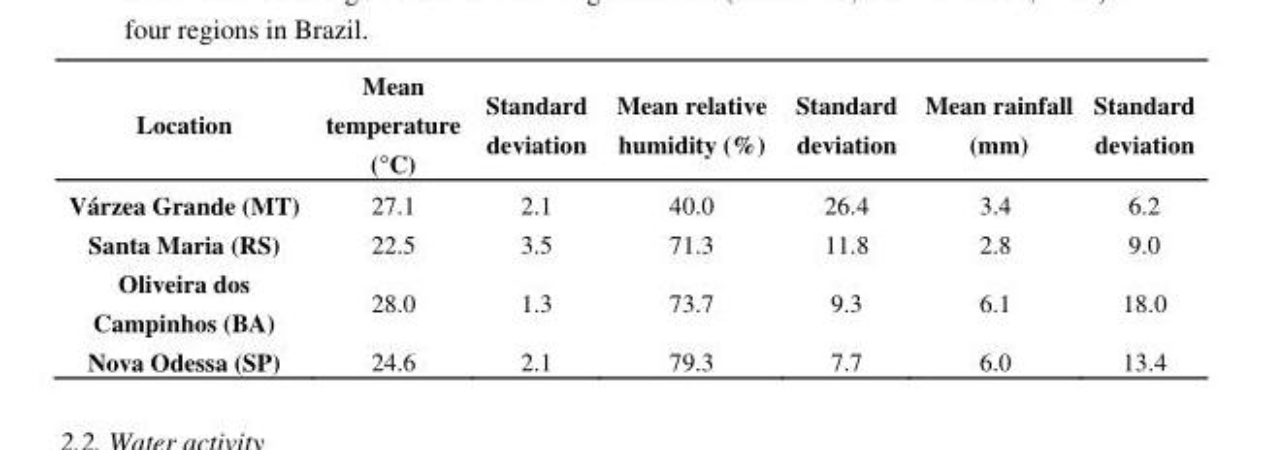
<table><thead><tr><td>Location</td><td>Mean temperature (°C)</td><td>Standard deviation</td><td>Mean relative humidity (%)</td><td>Standard deviation</td><td>Mean rainfall (mm)</td><td>Standard deviation</td></tr></thead><tbody><tr><td>Várzea Grande (MT)</td><td>27.1</td><td>2.1</td><td>40.0</td><td>26.4</td><td>3.4</td><td>6.2</td></tr><tr><td>Santa Maria (RS)</td><td>22.5</td><td>3.5</td><td>71.3</td><td>11.8</td><td>2.8</td><td>9.0</td></tr><tr><td>Oliveira dos Campinhos (BA)</td><td>28.0</td><td>1.3</td><td>73.7</td><td>9.3</td><td>6.1</td><td>18.0</td></tr><tr><td>Nova Odessa (SP)</td><td>24.6</td><td>2.1</td><td>79.3</td><td>7.7</td><td>6.0</td><td>13.4</td></tr></tbody></table>